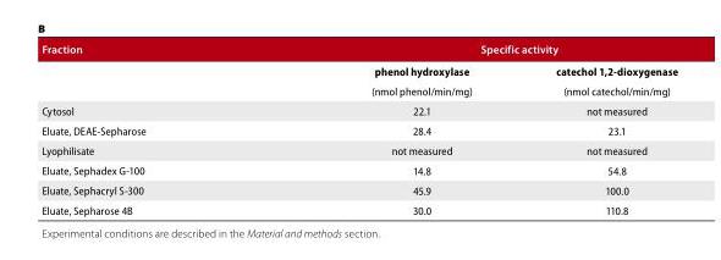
<table><thead><tr><td rowspan="3">Fraction</td><td colspan="2">Specific activity</td></tr><tr><td rowspan="2">phenol hydroxylase (nmol phenol/min/mg)</td><td rowspan="2">catechol 1,2-dioxygenase (nmol catechol/min/mg)</td></tr><tr></tr></thead><tbody><tr><td>Cytosol</td><td>22.1</td><td>not measured</td></tr><tr><td>Eluate, DEAE-Sepharose</td><td>28.4</td><td>23.1</td></tr><tr><td>Lyophilisate</td><td>not measured</td><td>not measured</td></tr><tr><td>Eluate, Sephadex G-100</td><td>14.8</td><td>54.8</td></tr><tr><td>Eluate, Sephacryl S-300</td><td>45.9</td><td>100.0</td></tr><tr><td>Eluate, Sepharose 4B</td><td>30.0</td><td>110.8</td></tr></tbody></table>